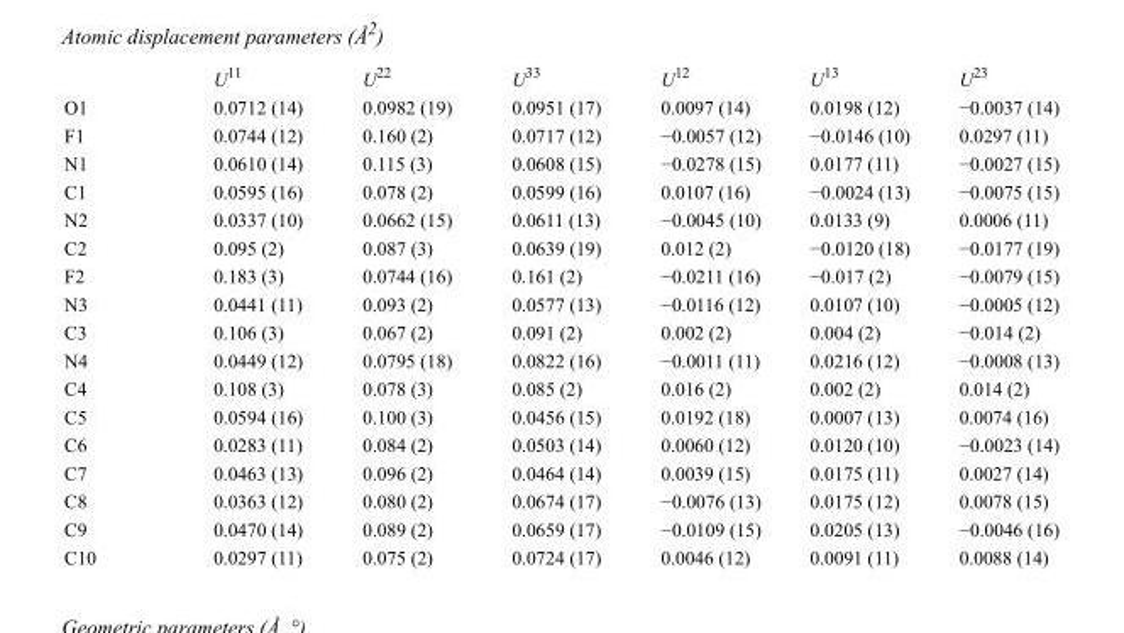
<table><thead><tr><td></td><td>U<sup>11</sup></td><td>U<sup>22</sup></td><td>U<sup>33</sup></td><td>U<sup>12</sup></td><td>U<sup>13</sup></td><td>U<sup>23</sup></td></tr></thead><tbody><tr><td>O1</td><td>0.0712 (14)</td><td>0.0982 (19)</td><td>0.0951 (17)</td><td>0.0097 (14)</td><td>0.0198 (12)</td><td>−0.0037 (14)</td></tr><tr><td>F1</td><td>0.0744 (12)</td><td>0.160 (2)</td><td>0.0717 (12)</td><td>−0.0057 (12)</td><td>−0.0146 (10)</td><td>0.0297 (11)</td></tr><tr><td>N1</td><td>0.0610 (14)</td><td>0.115 (3)</td><td>0.0608 (15)</td><td>−0.0278 (15)</td><td>0.0177 (11)</td><td>−0.0027 (15)</td></tr><tr><td>C1</td><td>0.0595 (16)</td><td>0.078 (2)</td><td>0.0599 (16)</td><td>0.0107 (16)</td><td>−0.0024 (13)</td><td>−0.0075 (15)</td></tr><tr><td>N2</td><td>0.0337 (10)</td><td>0.0662 (15)</td><td>0.0611 (13)</td><td>−0.0045 (10)</td><td>0.0133 (9)</td><td>0.0006 (11)</td></tr><tr><td>C2</td><td>0.095 (2)</td><td>0.087 (3)</td><td>0.0639 (19)</td><td>0.012 (2)</td><td>−0.0120 (18)</td><td>−0.0177 (19)</td></tr><tr><td>F2</td><td>0.183 (3)</td><td>0.0744 (16)</td><td>0.161 (2)</td><td>−0.0211 (16)</td><td>−0.017 (2)</td><td>−0.0079 (15)</td></tr><tr><td>N3</td><td>0.0441 (11)</td><td>0.093 (2)</td><td>0.0577 (13)</td><td>−0.0116 (12)</td><td>0.0107 (10)</td><td>−0.0005 (12)</td></tr><tr><td>C3</td><td>0.106 (3)</td><td>0.067 (2)</td><td>0.091 (2)</td><td>0.002 (2)</td><td>0.004 (2)</td><td>−0.014 (2)</td></tr><tr><td>N4</td><td>0.0449 (12)</td><td>0.0795 (18)</td><td>0.0822 (16)</td><td>−0.0011 (11)</td><td>0.0216 (12)</td><td>−0.0008 (13)</td></tr><tr><td>C4</td><td>0.108 (3)</td><td>0.078 (3)</td><td>0.085 (2)</td><td>0.016 (2)</td><td>0.002 (2)</td><td>0.014 (2)</td></tr><tr><td>C5</td><td>0.0594 (16)</td><td>0.100 (3)</td><td>0.0456 (15)</td><td>0.0192 (18)</td><td>0.0007 (13)</td><td>0.0074 (16)</td></tr><tr><td>C6</td><td>0.0283 (11)</td><td>0.084 (2)</td><td>0.0503 (14)</td><td>0.0060 (12)</td><td>0.0120 (10)</td><td>−0.0023 (14)</td></tr><tr><td>C7</td><td>0.0463 (13)</td><td>0.096 (2)</td><td>0.0464 (14)</td><td>0.0039 (15)</td><td>0.0175 (11)</td><td>0.0027 (14)</td></tr><tr><td>C8</td><td>0.0363 (12)</td><td>0.080 (2)</td><td>0.0674 (17)</td><td>−0.0076 (13)</td><td>0.0175 (12)</td><td>0.0078 (15)</td></tr><tr><td>C9</td><td>0.0470 (14)</td><td>0.089 (2)</td><td>0.0659 (17)</td><td>−0.0109 (15)</td><td>0.0205 (13)</td><td>−0.0046 (16)</td></tr><tr><td>C10</td><td>0.0297 (11)</td><td>0.075 (2)</td><td>0.0724 (17)</td><td>0.0046 (12)</td><td>0.0091 (11)</td><td>0.0088 (14)</td></tr></tbody></table>